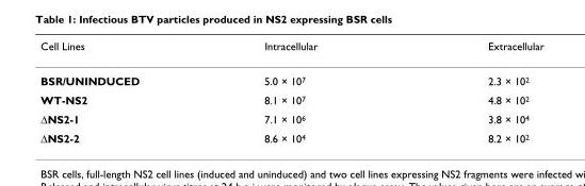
<table><thead><tr><td>Cell Lines</td><td>Intracellular</td><td>Extracellular</td></tr></thead><tbody><tr><td>BSR/UNINDUCED</td><td>5.0 × 107</td><td>2.3 × 102</td></tr><tr><td>WT-NS2</td><td>8.1 × 107</td><td>4.8 × 102</td></tr><tr><td>ΔNS2-1</td><td>7.1 × 106</td><td>3.8 × 104</td></tr><tr><td>ΔNS2-2</td><td>8.6 × 104</td><td>8.2 × 102</td></tr></tbody></table>